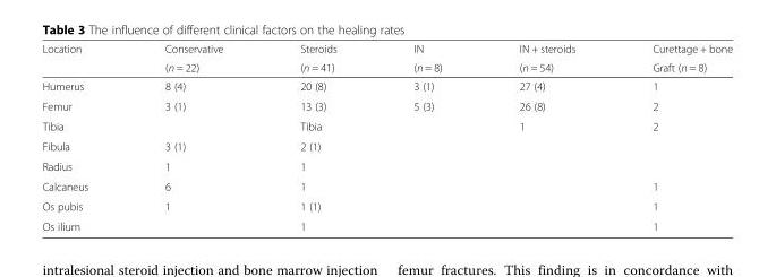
<table><thead><tr><td rowspan="2">Location</td><td rowspan="2">Conservative (n = 22)</td><td rowspan="2">Steroids (n = 41)</td><td rowspan="2">IN (n = 8)</td><td rowspan="2">IN + steroids (n = 54)</td><td rowspan="2">Curettage + bone Graft (n = 8)</td></tr><tr></tr></thead><tbody><tr><td>Humerus</td><td>8 (4)</td><td>20 (8)</td><td>3 (1)</td><td>27 (4)</td><td>1</td></tr><tr><td>Femur</td><td>3 (1)</td><td>13 (3)</td><td>5 (3)</td><td>26 (8)</td><td>2</td></tr><tr><td>Tibia</td><td></td><td>Tibia</td><td></td><td>1</td><td>2</td></tr><tr><td>Fibula</td><td>3 (1)</td><td>2 (1)</td><td></td><td></td><td></td></tr><tr><td>Radius</td><td>1</td><td>1</td><td></td><td></td><td></td></tr><tr><td>Calcaneus</td><td>6</td><td>1</td><td></td><td></td><td>1</td></tr><tr><td>Os pubis</td><td>1</td><td>1 (1)</td><td></td><td></td><td>1</td></tr><tr><td>Os ilium</td><td></td><td>1</td><td></td><td></td><td>1</td></tr></tbody></table>